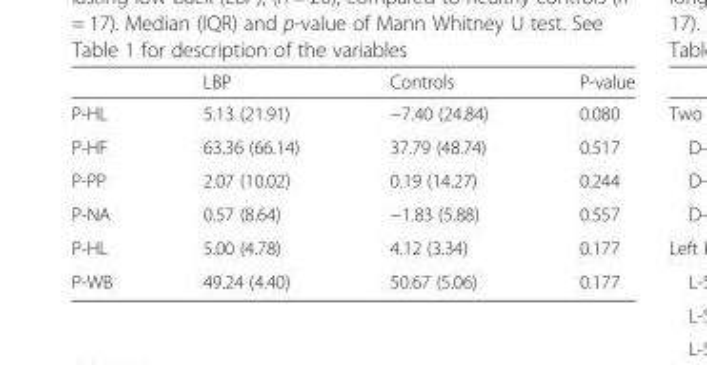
<table><thead><tr><td></td><td>LBP</td><td>Controls</td><td>P-value</td></tr></thead><tbody><tr><td>P-HL</td><td>5.13 (21.91)</td><td>−7.40 (24.84)</td><td>0.080</td></tr><tr><td>P-HF</td><td>63.36 (66.14)</td><td>37.79 (48.74)</td><td>0.517</td></tr><tr><td>P-PP</td><td>2.07 (10.02)</td><td>0.19 (14.27)</td><td>0.244</td></tr><tr><td>P-NA</td><td>0.57 (8.64)</td><td>−1.83 (5.88)</td><td>0.557</td></tr><tr><td>P-HL</td><td>5.00 (4.78)</td><td>4.12 (3.34)</td><td>0.177</td></tr><tr><td>P-WB</td><td>49.24 (4.40)</td><td>50.67 (5.06)</td><td>0.177</td></tr></tbody></table>